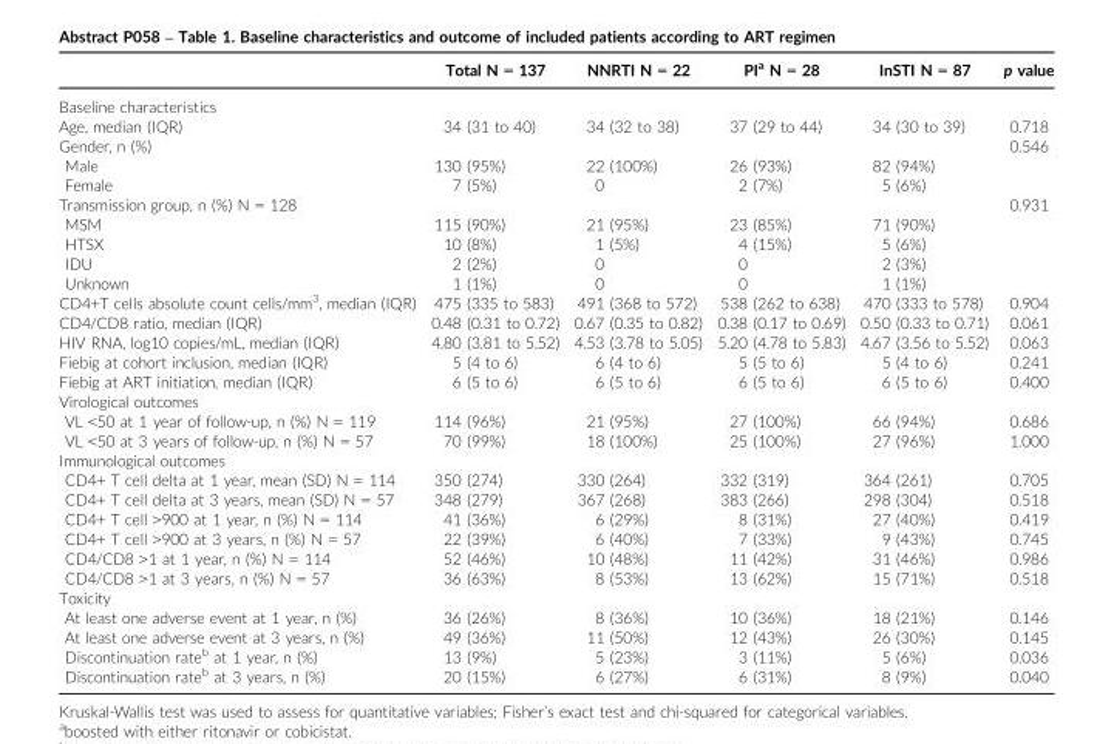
<table><thead><tr><td></td><td>Total N = 137</td><td>NNRTI N = 22</td><td>PI<sup>a</sup> N = 28</td><td>InSTI N = 87</td><td>p value</td></tr></thead><tbody><tr><td colspan="6">Baseline characteristics</td></tr><tr><td>Age, median (IQR)</td><td>34 (31 to 40)</td><td>34 (32 to 38)</td><td>37 (29 to 44)</td><td>34 (30 to 39)</td><td>0.718</td></tr><tr><td colspan="5">Gender, n (%)</td><td>0.546</td></tr><tr><td>Male</td><td>130 (95%)</td><td>22 (100%)</td><td>26 (93%)</td><td>82 (94%)</td><td></td></tr><tr><td>Female</td><td>7 (5%)</td><td>0</td><td>2 (7%)</td><td>5 (6%)</td><td></td></tr><tr><td colspan="5">Transmission group, n (%) N = 128</td><td>0.931</td></tr><tr><td>MSM</td><td>115 (90%)</td><td>21 (95%)</td><td>23 (85%)</td><td>71 (90%)</td><td></td></tr><tr><td>HTSX</td><td>10 (8%)</td><td>1 (5%)</td><td>4 (15%)</td><td>5 (6%)</td><td></td></tr><tr><td>IDU</td><td>2 (2%)</td><td>0</td><td>0</td><td>2 (3%)</td><td></td></tr><tr><td>Unknown</td><td>1 (1%)</td><td>0</td><td>0</td><td>1 (1%)</td><td></td></tr><tr><td>CD4+T cells absolute count cells/mm<sup>3</sup>, median (IQR)</td><td>475 (335 to 583)</td><td>491 (368 to 572)</td><td>538 (262 to 638)</td><td>470 (333 to 578)</td><td>0.904</td></tr><tr><td>CD4/CD8 ratio, median (IQR)</td><td>0.48 (0.31 to 0.72)</td><td>0.67 (0.35 to 0.82)</td><td>0.38 (0.17 to 0.69)</td><td>0.50 (0.33 to 0.71)</td><td>0.061</td></tr><tr><td>HIV RNA, log10 copies/mL, median (IQR)</td><td>4.80 (3.81 to 5.52)</td><td>4.53 (3.78 to 5.05)</td><td>5.20 (4.78 to 5.83)</td><td>4.67 (3.56 to 5.52)</td><td>0.063</td></tr><tr><td>Fiebig at cohort inclusion, median (IQR)</td><td>5 (4 to 6)</td><td>6 (4 to 6)</td><td>5 (5 to 6)</td><td>5 (4 to 6)</td><td>0.241</td></tr><tr><td>Fiebig at ART initiation, median (IQR)</td><td>6 (5 to 6)</td><td>6 (5 to 6)</td><td>6 (5 to 6)</td><td>6 (5 to 6)</td><td>0.400</td></tr><tr><td colspan="6">Virological outcomes</td></tr><tr><td>VL &lt;50 at 1 year of follow-up, n (%) N = 119</td><td>114 (96%)</td><td>21 (95%)</td><td>27 (100%)</td><td>66 (94%)</td><td>0.686</td></tr><tr><td>VL &lt;50 at 3 years of follow-up, n (%) N = 57</td><td>70 (99%)</td><td>18 (100%)</td><td>25 (100%)</td><td>27 (96%)</td><td>1.000</td></tr><tr><td colspan="6">Immunological outcomes</td></tr><tr><td>CD4+ T cell delta at 1 year, mean (SD) N = 114</td><td>350 (274)</td><td>330 (264)</td><td>332 (319)</td><td>364 (261)</td><td>0.705</td></tr><tr><td>CD4+ T cell delta at 3 years, mean (SD) N = 57</td><td>348 (279)</td><td>367 (268)</td><td>383 (266)</td><td>298 (304)</td><td>0.518</td></tr><tr><td>CD4+ T cell &gt;900 at 1 year, n (%) N = 114</td><td>41 (36%)</td><td>6 (29%)</td><td>8 (31%)</td><td>27 (40%)</td><td>0.419</td></tr><tr><td>CD4+ T cell &gt;900 at 3 years, n (%) N = 57</td><td>22 (39%)</td><td>6 (40%)</td><td>7 (33%)</td><td>9 (43%)</td><td>0.745</td></tr><tr><td>CD4/CD8 &gt;1 at 1 year, n (%) N = 114</td><td>52 (46%)</td><td>10 (48%)</td><td>11 (42%)</td><td>31 (46%)</td><td>0.986</td></tr><tr><td>CD4/CD8 &gt;1 at 3 years, n (%) N = 57</td><td>36 (63%)</td><td>8 (53%)</td><td>13 (62%)</td><td>15 (71%)</td><td>0.518</td></tr><tr><td colspan="6">Toxicity</td></tr><tr><td>At least one adverse event at 1 year, n (%)</td><td>36 (26%)</td><td>8 (36%)</td><td>10 (36%)</td><td>18 (21%)</td><td>0.146</td></tr><tr><td>At least one adverse event at 3 years, n (%)</td><td>49 (36%)</td><td>11 (50%)</td><td>12 (43%)</td><td>26 (30%)</td><td>0.145</td></tr><tr><td>Discontinuation rate<sup>b</sup> at 1 year, n (%)</td><td>13 (9%)</td><td>5 (23%)</td><td>3 (11%)</td><td>5 (6%)</td><td>0.036</td></tr><tr><td>Discontinuation rate<sup>b</sup> at 3 years, n (%)</td><td>20 (15%)</td><td>6 (27%)</td><td>6 (31%)</td><td>8 (9%)</td><td>0.040</td></tr></tbody></table>